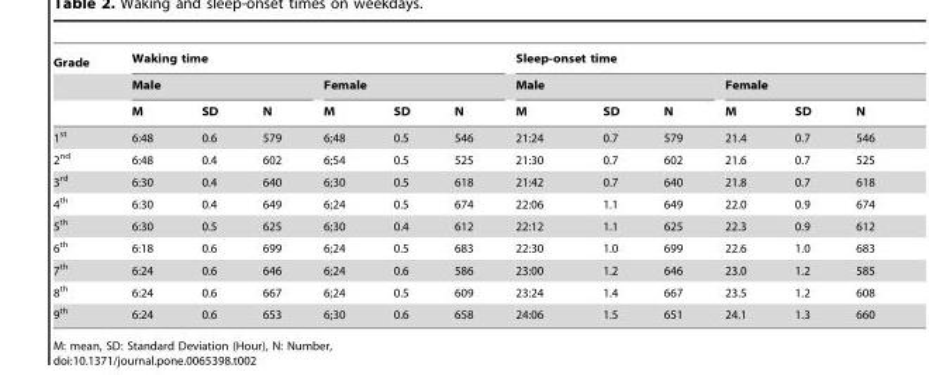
<table><thead><tr><td rowspan="3">Grade</td><td colspan="6">Waking time</td><td colspan="6">Sleep-onset time</td></tr><tr><td colspan="3">Male</td><td colspan="3">Female</td><td colspan="3">Male</td><td colspan="3">Female</td></tr><tr><td>M</td><td>SD</td><td>N</td><td>M</td><td>SD</td><td>N</td><td>M</td><td>SD</td><td>N</td><td>M</td><td>SD</td><td>N</td></tr></thead><tbody><tr><td>1<sup>st</sup></td><td>6:48</td><td>0.6</td><td>579</td><td>6;48</td><td>0.5</td><td>546</td><td>21:24</td><td>0.7</td><td>579</td><td>21.4</td><td>0.7</td><td>546</td></tr><tr><td>2<sup>nd</sup></td><td>6:48</td><td>0.4</td><td>602</td><td>6;54</td><td>0.5</td><td>525</td><td>21:30</td><td>0.7</td><td>602</td><td>21.6</td><td>0.7</td><td>525</td></tr><tr><td>3<sup>rd</sup></td><td>6:30</td><td>0.4</td><td>640</td><td>6;30</td><td>0.5</td><td>618</td><td>21:42</td><td>0.7</td><td>640</td><td>21.8</td><td>0.7</td><td>618</td></tr><tr><td>4<sup>th</sup></td><td>6:30</td><td>0.4</td><td>649</td><td>6;24</td><td>0.5</td><td>674</td><td>22:06</td><td>1.1</td><td>649</td><td>22.0</td><td>0.9</td><td>674</td></tr><tr><td>5<sup>th</sup></td><td>6:30</td><td>0.5</td><td>625</td><td>6;30</td><td>0.4</td><td>612</td><td>22:12</td><td>1.1</td><td>625</td><td>22.3</td><td>0.9</td><td>612</td></tr><tr><td>6<sup>th</sup></td><td>6:18</td><td>0.6</td><td>699</td><td>6;24</td><td>0.5</td><td>683</td><td>22:30</td><td>1.0</td><td>699</td><td>22.6</td><td>1.0</td><td>683</td></tr><tr><td>7<sup>th</sup></td><td>6:24</td><td>0.6</td><td>646</td><td>6;24</td><td>0.6</td><td>586</td><td>23:00</td><td>1.2</td><td>646</td><td>23.0</td><td>1.2</td><td>585</td></tr><tr><td>8<sup>th</sup></td><td>6:24</td><td>0.6</td><td>667</td><td>6;24</td><td>0.5</td><td>609</td><td>23:24</td><td>1.4</td><td>667</td><td>23.5</td><td>1.2</td><td>608</td></tr><tr><td>9<sup>th</sup></td><td>6:24</td><td>0.6</td><td>653</td><td>6;30</td><td>0.6</td><td>658</td><td>24:06</td><td>1.5</td><td>651</td><td>24.1</td><td>1.3</td><td>660</td></tr></tbody></table>